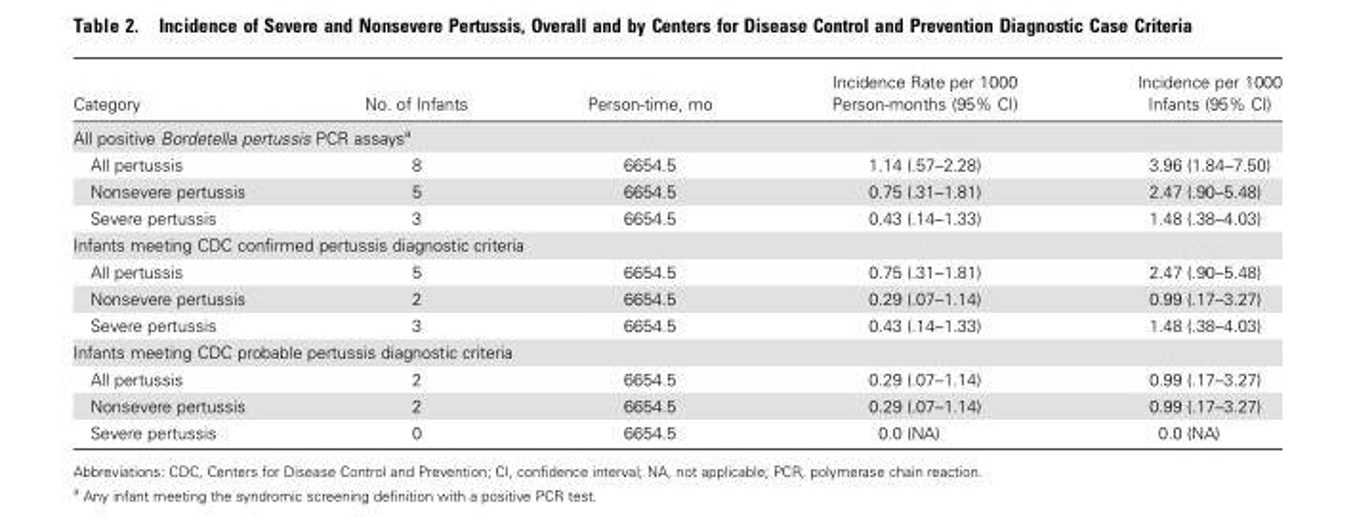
<table><thead><tr><td>Category</td><td>No. of Infants</td><td>Person-time, mo</td><td>Incidence Rate per 1000 Person-months (95% CI)</td><td>Incidence per 1000 Infants (95% CI)</td></tr></thead><tbody><tr><td colspan="5">All positive Bordetella pertussis PCR assays<sup>a</sup></td></tr><tr><td>All pertussis</td><td>8</td><td>6654.5</td><td>1.14 (.57–2.28)</td><td>3.96 (1.84–7.50)</td></tr><tr><td>Nonsevere pertussis</td><td>5</td><td>6654.5</td><td>0.75 (.31–1.81)</td><td>2.47 (.90–5.48)</td></tr><tr><td>Severe pertussis</td><td>3</td><td>6654.5</td><td>0.43 (.14–1.33)</td><td>1.48 (.38–4.03)</td></tr><tr><td colspan="5">Infants meeting CDC confirmed pertussis diagnostic criteria</td></tr><tr><td>All pertussis</td><td>5</td><td>6654.5</td><td>0.75 (.31–1.81)</td><td>2.47 (.90–5.48)</td></tr><tr><td>Nonsevere pertussis</td><td>2</td><td>6654.5</td><td>0.29 (.07–1.14)</td><td>0.99 (.17–3.27)</td></tr><tr><td>Severe pertussis</td><td>3</td><td>6654.5</td><td>0.43 (.14–1.33)</td><td>1.48 (.38–4.03)</td></tr><tr><td colspan="5">Infants meeting CDC probable pertussis diagnostic criteria</td></tr><tr><td>All pertussis</td><td>2</td><td>6654.5</td><td>0.29 (.07–1.14)</td><td>0.99 (.17–3.27)</td></tr><tr><td>Nonsevere pertussis</td><td>2</td><td>6654.5</td><td>0.29 (.07–1.14)</td><td>0.99 (.17–3.27)</td></tr><tr><td>Severe pertussis</td><td>0</td><td>6654.5</td><td>0.0 (NA)</td><td>0.0 (NA)</td></tr></tbody></table>